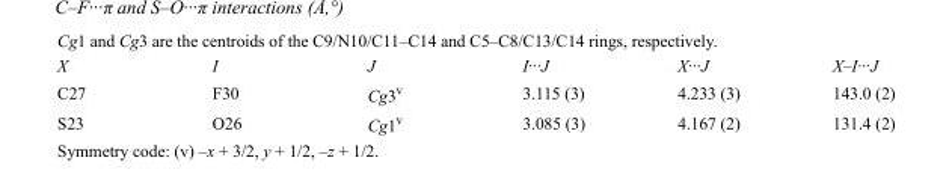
<table><tbody><tr><td>X</td><td>I</td><td>J</td><td>I···J</td><td>X···J</td><td>X–I···J</td></tr><tr><td>C27</td><td>F30</td><td>Cg3<sup>v</sup></td><td>3.115 (3)</td><td>4.233 (3)</td><td>143.0 (2)</td></tr><tr><td>S23</td><td>O26</td><td>Cg1<sup>v</sup></td><td>3.085 (3)</td><td>4.167 (2)</td><td>131.4 (2)</td></tr></tbody></table>